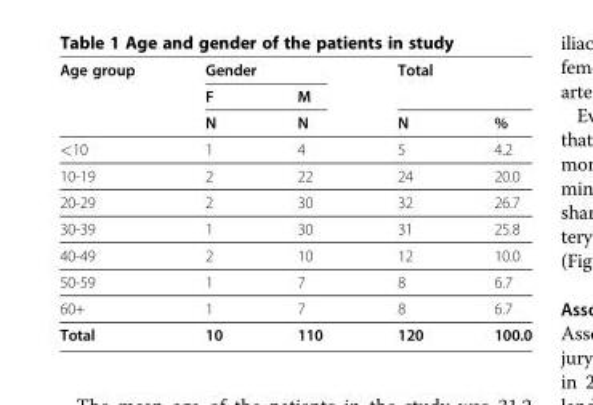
<table><thead><tr><td rowspan="3">Age group</td><td colspan="2">Gender</td><td colspan="2">Total</td></tr><tr><td rowspan="2">F N</td><td rowspan="2">M N</td><td rowspan="2">N</td><td rowspan="2">%</td></tr><tr></tr></thead><tbody><tr><td>&lt;10</td><td>1</td><td>4</td><td>5</td><td>4.2</td></tr><tr><td>10-19</td><td>2</td><td>22</td><td>24</td><td>20.0</td></tr><tr><td>20-29</td><td>2</td><td>30</td><td>32</td><td>26.7</td></tr><tr><td>30-39</td><td>1</td><td>30</td><td>31</td><td>25.8</td></tr><tr><td>40-49</td><td>2</td><td>10</td><td>12</td><td>10.0</td></tr><tr><td>50-59</td><td>1</td><td>7</td><td>8</td><td>6.7</td></tr><tr><td>60+</td><td>1</td><td>7</td><td>8</td><td>6.7</td></tr><tr><td>Total</td><td>10</td><td>110</td><td>120</td><td>100.0</td></tr></tbody></table>